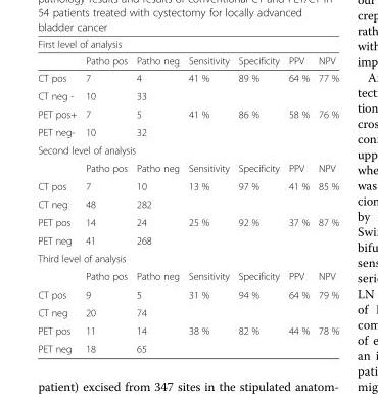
<table><thead><tr><td colspan="7">First level of analysis</td></tr><tr><td></td><td>Patho pos</td><td>Patho neg</td><td>Sensitivity</td><td>Specificity</td><td>PPV</td><td>NPV</td></tr></thead><tbody><tr><td>CT pos</td><td>7</td><td>4</td><td>41 %</td><td>89 %</td><td>64 %</td><td>77 %</td></tr><tr><td>CT neg -</td><td>10</td><td>33</td><td></td><td></td><td></td><td></td></tr><tr><td>PET pos+</td><td>7</td><td>5</td><td>41 %</td><td>86 %</td><td>58 %</td><td>76 %</td></tr><tr><td>PET neg-</td><td>10</td><td>32</td><td></td><td></td><td></td><td></td></tr><tr><td colspan="7">Second level of analysis</td></tr><tr><td></td><td>Patho pos</td><td>Patho neg</td><td>Sensitivity</td><td>Specificity</td><td>PPV</td><td>NPV</td></tr><tr><td>CT pos</td><td>7</td><td>10</td><td>13 %</td><td>97 %</td><td>41 %</td><td>85 %</td></tr><tr><td>CT neg</td><td>48</td><td>282</td><td></td><td></td><td></td><td></td></tr><tr><td>PET pos</td><td>14</td><td>24</td><td>25 %</td><td>92 %</td><td>37 %</td><td>87 %</td></tr><tr><td>PET neg</td><td>41</td><td>268</td><td></td><td></td><td></td><td></td></tr><tr><td colspan="7">Third level of analysis</td></tr><tr><td></td><td>Patho pos</td><td>Patho neg</td><td>Sensitivity</td><td>Specificity</td><td>PPV</td><td>NPV</td></tr><tr><td>CT pos</td><td>9</td><td>5</td><td>31 %</td><td>94 %</td><td>64 %</td><td>79 %</td></tr><tr><td>CT neg</td><td>20</td><td>74</td><td></td><td></td><td></td><td></td></tr><tr><td>PET pos</td><td>11</td><td>14</td><td>38 %</td><td>82 %</td><td>44 %</td><td>78 %</td></tr><tr><td>PET neg</td><td>18</td><td>65</td><td></td><td></td><td></td><td></td></tr></tbody></table>